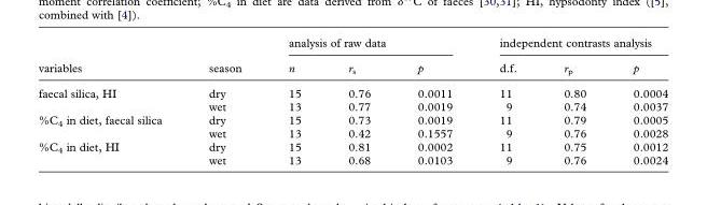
<table><thead><tr><td rowspan="2">variables</td><td rowspan="2">season</td><td colspan="3">analysis of raw data</td><td colspan="3">independent contrasts analysis</td></tr><tr><td>n</td><td>r<sub>s</sub></td><td>p</td><td>d.f.</td><td>r<sub>p</sub></td><td>p</td></tr></thead><tbody><tr><td rowspan="2">faecal silica, HI</td><td>dry</td><td>15</td><td>0.76</td><td>0.0011</td><td>11</td><td>0.80</td><td>0.0004</td></tr><tr><td>wet</td><td>13</td><td>0.77</td><td>0.0019</td><td>9</td><td>0.74</td><td>0.0037</td></tr><tr><td rowspan="2">%C<sub>4</sub> in diet, faecal silica</td><td>dry</td><td>15</td><td>0.73</td><td>0.0019</td><td>11</td><td>0.79</td><td>0.0005</td></tr><tr><td>wet</td><td>13</td><td>0.42</td><td>0.1557</td><td>9</td><td>0.76</td><td>0.0028</td></tr><tr><td rowspan="2">%C<sub>4</sub> in diet, HI</td><td>dry</td><td>15</td><td>0.81</td><td>0.0002</td><td>11</td><td>0.75</td><td>0.0012</td></tr><tr><td>wet</td><td>13</td><td>0.68</td><td>0.0103</td><td>9</td><td>0.76</td><td>0.0024</td></tr></tbody></table>